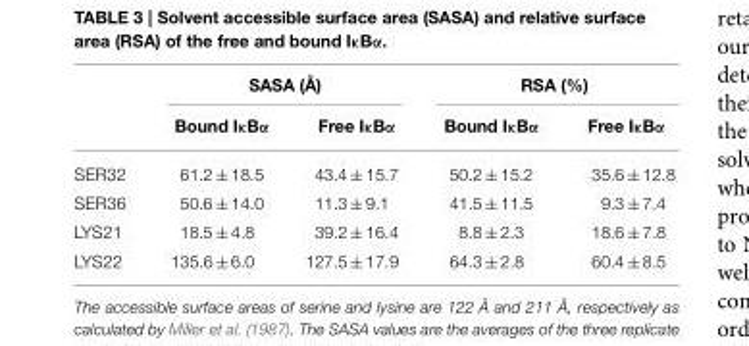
<table><thead><tr><td rowspan="2"></td><td colspan="2">SASA (Å)</td><td colspan="2">RSA (%)</td></tr><tr><td>Bound IκBα</td><td>Free IκBα</td><td>Bound IκBα</td><td>Free IκBα</td></tr></thead><tbody><tr><td>SER32</td><td>61.2 ± 18.5</td><td>43.4 ± 15.7</td><td>50.2 ± 15.2</td><td>35.6 ± 12.8</td></tr><tr><td>SER36</td><td>50.6 ± 14.0</td><td>11.3 ± 9.1</td><td>41.5 ± 11.5</td><td>9.3 ± 7.4</td></tr><tr><td>LYS21</td><td>18.5 ± 4.8</td><td>39.2 ± 16.4</td><td>8.8 ± 2.3</td><td>18.6 ± 7.8</td></tr><tr><td>LYS22</td><td>135.6 ± 6.0</td><td>127.5 ± 17.9</td><td>64.3 ± 2.8</td><td>60.4 ± 8.5</td></tr></tbody></table>